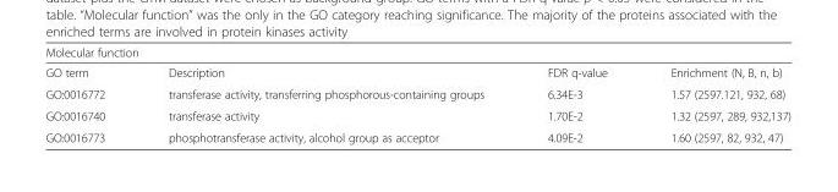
<table><thead><tr><td colspan="4">Molecular function</td></tr><tr><td>GO term</td><td>Description</td><td>FDR q-value</td><td>Enrichment (N, B, n, b)</td></tr></thead><tbody><tr><td>GO:0016772</td><td>transferase activity, transferring phosphorous-containing groups</td><td>6.34E-3</td><td>1.57 (2597.121, 932, 68)</td></tr><tr><td>GO:0016740</td><td>transferase activity</td><td>1.70E-2</td><td>1.32 (2597, 289, 932,137)</td></tr><tr><td>GO:0016773</td><td>phosphotransferase activity, alcohol group as acceptor</td><td>4.09E-2</td><td>1.60 (2597, 82, 932, 47)</td></tr></tbody></table>